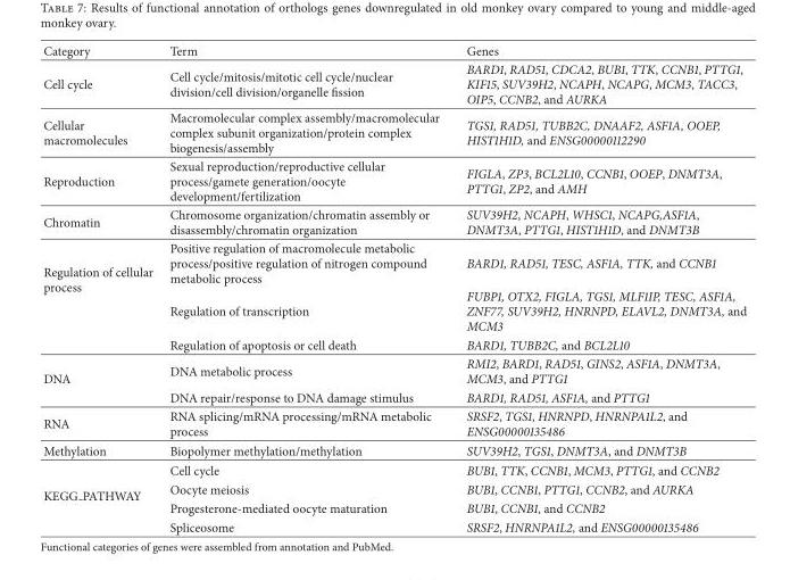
<table><thead><tr><td>Category</td><td>Term</td><td>Genes</td></tr></thead><tbody><tr><td>Cell cycle</td><td>Cell cycle/mitosis/mitotic cell cycle/nuclear division/cell division/organelle fission</td><td>BARD1, RAD51, CDCA2, BUB1, TTK, CCNB1, PTTG1, KIF15, SUV39H2, NCAPH, NCAPG, MCM3, TACC3, OIP5, CCNB2, and AURKA</td></tr><tr><td>Cellular macromolecules</td><td>Macromolecular complex assembly/macromolecular complex subunit organization/protein complex biogenesis/assembly</td><td>TGS1, RAD51, TUBB2C, DNAAF2, ASF1A, OOEP, HIST1H1D, and ENSG00000112290</td></tr><tr><td>Reproduction</td><td>Sexual reproduction/reproductive cellular process/gamete generation/oocyte development/fertilization</td><td>FIGLA, ZP3, BCL2L10, CCNB1, OOEP, DNMT3A, PTTG1, ZP2, and AMH</td></tr><tr><td>Chromatin</td><td>Chromosome organization/chromatin assembly or disassembly/chromatin organization</td><td>SUV39H2, NCAPH, WHSC1, NCAPG,ASF1A, DNMT3A, PTTG1, HIST1H1D, and DNMT3B</td></tr><tr><td rowspan="3">Regulation of cellular process</td><td>Positive regulation of macromolecule metabolic process/positive regulation of nitrogen compound metabolic process</td><td>BARD1, RAD51, TESC, ASF1A, TTK, and CCNB1</td></tr><tr><td>Regulation of transcription</td><td>FUBP1, OTX2, FIGLA, TGS1, MLF1IP, TESC, ASF1A, ZNF77, SUV39H2, HNRNPD, ELAVL2, DNMT3A, and MCM3</td></tr><tr><td>Regulation of apoptosis or cell death</td><td>BARD1, TUBB2C, and BCL2L10</td></tr><tr><td rowspan="2">DNA</td><td>DNA metabolic process</td><td>RMI2, BARD1, RAD51, GINS2, ASF1A, DNMT3A, MCM3, and PTTG1</td></tr><tr><td>DNA repair/response to DNA damage stimulus</td><td>BARD1, RAD51, ASF1A, and PTTG1</td></tr><tr><td>RNA</td><td>RNA splicing/mRNA processing/mRNA metabolic process</td><td>SRSF2, TGS1, HNRNPD, HNRNPA1L2, and ENSG00000135486</td></tr><tr><td>Methylation</td><td>Biopolymer methylation/methylation</td><td>SUV39H2, TGS1, DNMT3A, and DNMT3B</td></tr><tr><td rowspan="4">KEGG PATHWAY</td><td>Cell cycle</td><td>BUB1, TTK, CCNB1, MCM3, PTTG1, and CCNB2</td></tr><tr><td>Oocyte meiosis</td><td>BUB1, CCNB1, PTTG1, CCNB2, and AURKA</td></tr><tr><td>Progesterone-mediated oocyte maturation</td><td>BUB1, CCNB1, and CCNB2</td></tr><tr><td>Spliceosome</td><td>SRSF2, HNRNPA1L2, and ENSG00000135486</td></tr></tbody></table>